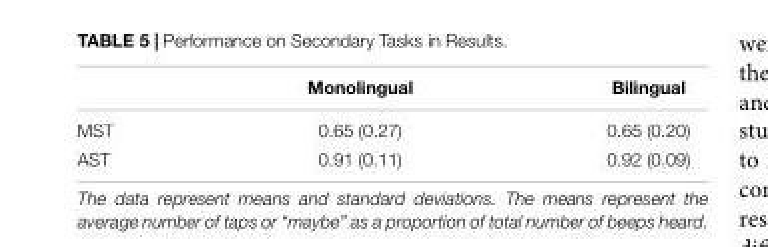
<table><thead><tr><td></td><td>Monolingual</td><td>Bilingual</td></tr></thead><tbody><tr><td>MST</td><td>0.65 (0.27)</td><td>0.65 (0.20)</td></tr><tr><td>AST</td><td>0.91 (0.11)</td><td>0.92 (0.09)</td></tr></tbody></table>